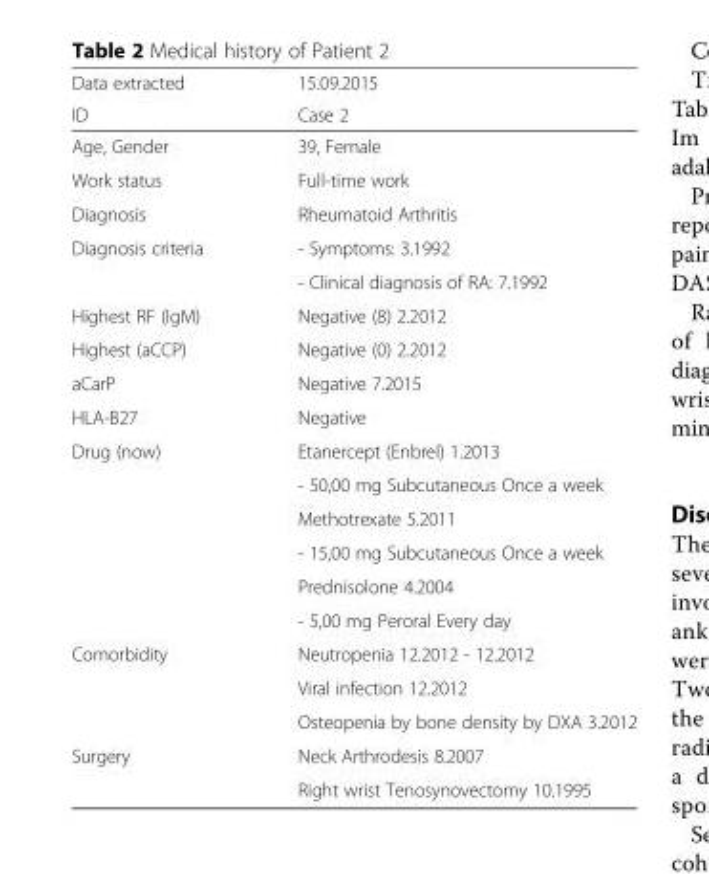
<table><thead><tr><td rowspan="2">Data extracted ID</td><td rowspan="2">15.09.2015 Case 2</td></tr><tr></tr></thead><tbody><tr><td>Age, Gender</td><td>39, Female</td></tr><tr><td>Work status</td><td>Full-time work</td></tr><tr><td>Diagnosis</td><td>Rheumatoid Arthritis</td></tr><tr><td rowspan="2">Diagnosis criteria</td><td>- Symptoms: 3.1992</td></tr><tr><td>- Clinical diagnosis of RA: 7.1992</td></tr><tr><td>Highest RF (IgM)</td><td>Negative (8) 2.2012</td></tr><tr><td>Highest (aCCP)</td><td>Negative (0) 2.2012</td></tr><tr><td>aCarP</td><td>Negative 7.2015</td></tr><tr><td>HLA-B27</td><td>Negative</td></tr><tr><td rowspan="6">Drug (now)</td><td>Etanercept (Enbrel) 1.2013</td></tr><tr><td>- 50,00 mg Subcutaneous Once a week</td></tr><tr><td>Methotrexate 5.2011</td></tr><tr><td>- 15,00 mg Subcutaneous Once a week</td></tr><tr><td>Prednisolone 4.2004</td></tr><tr><td>- 5,00 mg Peroral Every day</td></tr><tr><td rowspan="3">Comorbidity</td><td>Neutropenia 12.2012 - 12.2012</td></tr><tr><td>Viral infection 12.2012</td></tr><tr><td>Osteopenia by bone density by DXA 3.2012</td></tr><tr><td rowspan="2">Surgery</td><td>Neck Arthrodesis 8.2007</td></tr><tr><td>Right wrist Tenosynovectomy 10.1995</td></tr></tbody></table>